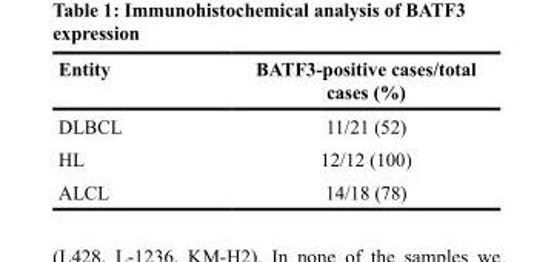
<table><thead><tr><td>Entity</td><td>BATF3-positive cases/total cases (%)</td></tr></thead><tbody><tr><td>DLBCL</td><td>11/21 (52)</td></tr><tr><td>HL</td><td>12/12 (100)</td></tr><tr><td>ALCL</td><td>14/18 (78)</td></tr></tbody></table>